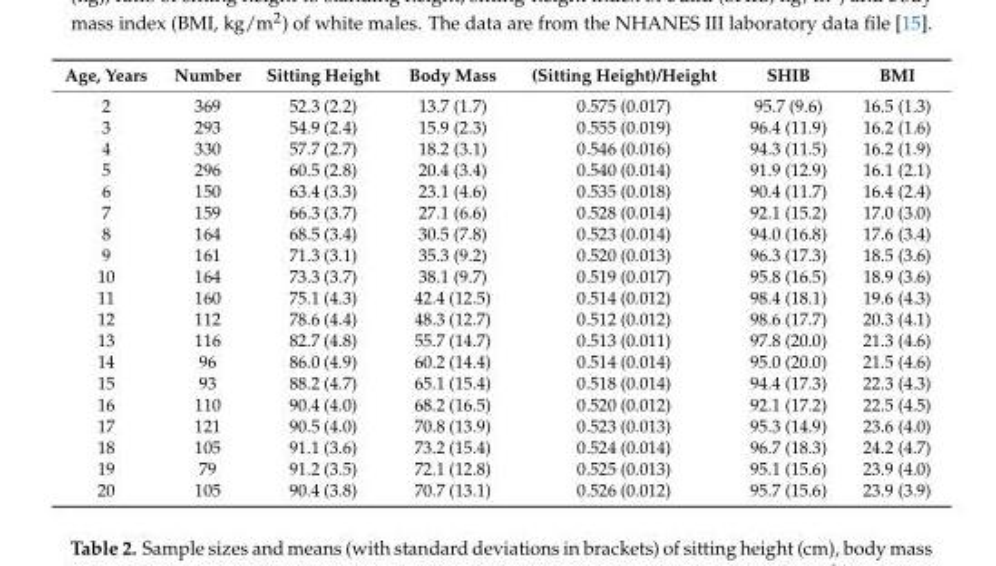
<table><thead><tr><td>Age, Years</td><td>Number</td><td>Sitting Height</td><td>Body Mass</td><td>(Sitting Height)/Height</td><td>SHIB</td><td>BMI</td></tr></thead><tbody><tr><td>2</td><td>369</td><td>52.3 (2.2)</td><td>13.7 (1.7)</td><td>0.575 (0.017)</td><td>95.7 (9.6)</td><td>16.5 (1.3)</td></tr><tr><td>3</td><td>293</td><td>54.9 (2.4)</td><td>15.9 (2.3)</td><td>0.555 (0.019)</td><td>96.4 (11.9)</td><td>16.2 (1.6)</td></tr><tr><td>4</td><td>330</td><td>57.7 (2.7)</td><td>18.2 (3.1)</td><td>0.546 (0.016)</td><td>94.3 (11.5)</td><td>16.2 (1.9)</td></tr><tr><td>5</td><td>296</td><td>60.5 (2.8)</td><td>20.4 (3.4)</td><td>0.540 (0.014)</td><td>91.9 (12.9)</td><td>16.1 (2.1)</td></tr><tr><td>6</td><td>150</td><td>63.4 (3.3)</td><td>23.1 (4.6)</td><td>0.535 (0.018)</td><td>90.4 (11.7)</td><td>16.4 (2.4)</td></tr><tr><td>7</td><td>159</td><td>66.3 (3.7)</td><td>27.1 (6.6)</td><td>0.528 (0.014)</td><td>92.1 (15.2)</td><td>17.0 (3.0)</td></tr><tr><td>8</td><td>164</td><td>68.5 (3.4)</td><td>30.5 (7.8)</td><td>0.523 (0.014)</td><td>94.0 (16.8)</td><td>17.6 (3.4)</td></tr><tr><td>9</td><td>161</td><td>71.3 (3.1)</td><td>35.3 (9.2)</td><td>0.520 (0.013)</td><td>96.3 (17.3)</td><td>18.5 (3.6)</td></tr><tr><td>10</td><td>164</td><td>73.3 (3.7)</td><td>38.1 (9.7)</td><td>0.519 (0.017)</td><td>95.8 (16.5)</td><td>18.9 (3.6)</td></tr><tr><td>11</td><td>160</td><td>75.1 (4.3)</td><td>42.4 (12.5)</td><td>0.514 (0.012)</td><td>98.4 (18.1)</td><td>19.6 (4.3)</td></tr><tr><td>12</td><td>112</td><td>78.6 (4.4)</td><td>48.3 (12.7)</td><td>0.512 (0.012)</td><td>98.6 (17.7)</td><td>20.3 (4.1)</td></tr><tr><td>13</td><td>116</td><td>82.7 (4.8)</td><td>55.7 (14.7)</td><td>0.513 (0.011)</td><td>97.8 (20.0)</td><td>21.3 (4.6)</td></tr><tr><td>14</td><td>96</td><td>86.0 (4.9)</td><td>60.2 (14.4)</td><td>0.514 (0.014)</td><td>95.0 (20.0)</td><td>21.5 (4.6)</td></tr><tr><td>15</td><td>93</td><td>88.2 (4.7)</td><td>65.1 (15.4)</td><td>0.518 (0.014)</td><td>94.4 (17.3)</td><td>22.3 (4.3)</td></tr><tr><td>16</td><td>110</td><td>90.4 (4.0)</td><td>68.2 (16.5)</td><td>0.520 (0.012)</td><td>92.1 (17.2)</td><td>22.5 (4.5)</td></tr><tr><td>17</td><td>121</td><td>90.5 (4.0)</td><td>70.8 (13.9)</td><td>0.523 (0.013)</td><td>95.3 (14.9)</td><td>23.6 (4.0)</td></tr><tr><td>18</td><td>105</td><td>91.1 (3.6)</td><td>73.2 (15.4)</td><td>0.524 (0.014)</td><td>96.7 (18.3)</td><td>24.2 (4.7)</td></tr><tr><td>19</td><td>79</td><td>91.2 (3.5)</td><td>72.1 (12.8)</td><td>0.525 (0.013)</td><td>95.1 (15.6)</td><td>23.9 (4.0)</td></tr><tr><td>20</td><td>105</td><td>90.4 (3.8)</td><td>70.7 (13.1)</td><td>0.526 (0.012)</td><td>95.7 (15.6)</td><td>23.9 (3.9)</td></tr></tbody></table>